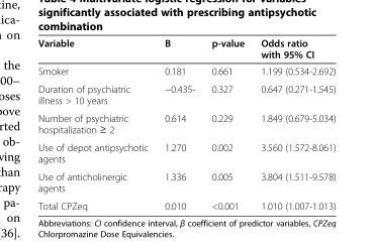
<table><thead><tr><td>Variable</td><td>B</td><td>p-value</td><td>Odds ratio with 95% CI</td></tr></thead><tbody><tr><td>Smoker</td><td>0.181</td><td>0.661</td><td>1.199 (0.534-2.692)</td></tr><tr><td>Duration of psychiatric illness &gt; 10 years</td><td>−0.435-</td><td>0.327</td><td>0.647 (0.271-1.545)</td></tr><tr><td>Number of psychiatric hospitalization ≥ 2</td><td>0.614</td><td>0.229</td><td>1.849 (0.679-5.034)</td></tr><tr><td>Use of depot antipsychotic agents</td><td>1.270</td><td>0.002</td><td>3.560 (1.572-8.061)</td></tr><tr><td>Use of anticholinergic agents</td><td>1.336</td><td>0.005</td><td>3.804 (1.511-9.578)</td></tr><tr><td>Total CPZeq</td><td>0.010</td><td>&lt;0.001</td><td>1.010 (1.007-1.013)</td></tr></tbody></table>